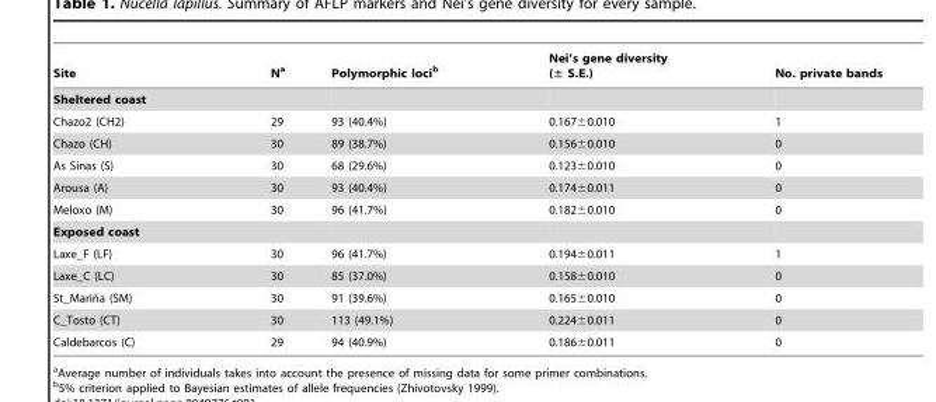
<table><thead><tr><td>Site</td><td>N<sup>a</sup></td><td>Polymorphic loci<sup>b</sup></td><td>Nei’s gene diversity (± S.E.)</td><td>No. private bands</td></tr></thead><tbody><tr><td colspan="5">Sheltered coast</td></tr><tr><td>Chazo2 (CH2)</td><td>29</td><td>93 (40.4%)</td><td>0.167±0.010</td><td>1</td></tr><tr><td>Chazo (CH)</td><td>30</td><td>89 (38.7%)</td><td>0.156±0.010</td><td>0</td></tr><tr><td>As Sinas (S)</td><td>30</td><td>68 (29.6%)</td><td>0.123±0.010</td><td>0</td></tr><tr><td>Arousa (A)</td><td>30</td><td>93 (40.4%)</td><td>0.174±0.011</td><td>0</td></tr><tr><td>Meloxo (M)</td><td>30</td><td>96 (41.7%)</td><td>0.182±0.010</td><td>0</td></tr><tr><td colspan="5">Exposed coast</td></tr><tr><td>Laxe_F (LF)</td><td>30</td><td>96 (41.7%)</td><td>0.194±0.011</td><td>1</td></tr><tr><td>Laxe_C (LC)</td><td>30</td><td>85 (37.0%)</td><td>0.158±0.010</td><td>0</td></tr><tr><td>St_Marin˜a (SM)</td><td>30</td><td>91 (39.6%)</td><td>0.165±0.010</td><td>0</td></tr><tr><td>C_Tosto (CT)</td><td>30</td><td>113 (49.1%)</td><td>0.224±0.011</td><td>0</td></tr><tr><td>Caldebarcos (C)</td><td>29</td><td>94 (40.9%)</td><td>0.186±0.011</td><td>0</td></tr></tbody></table>